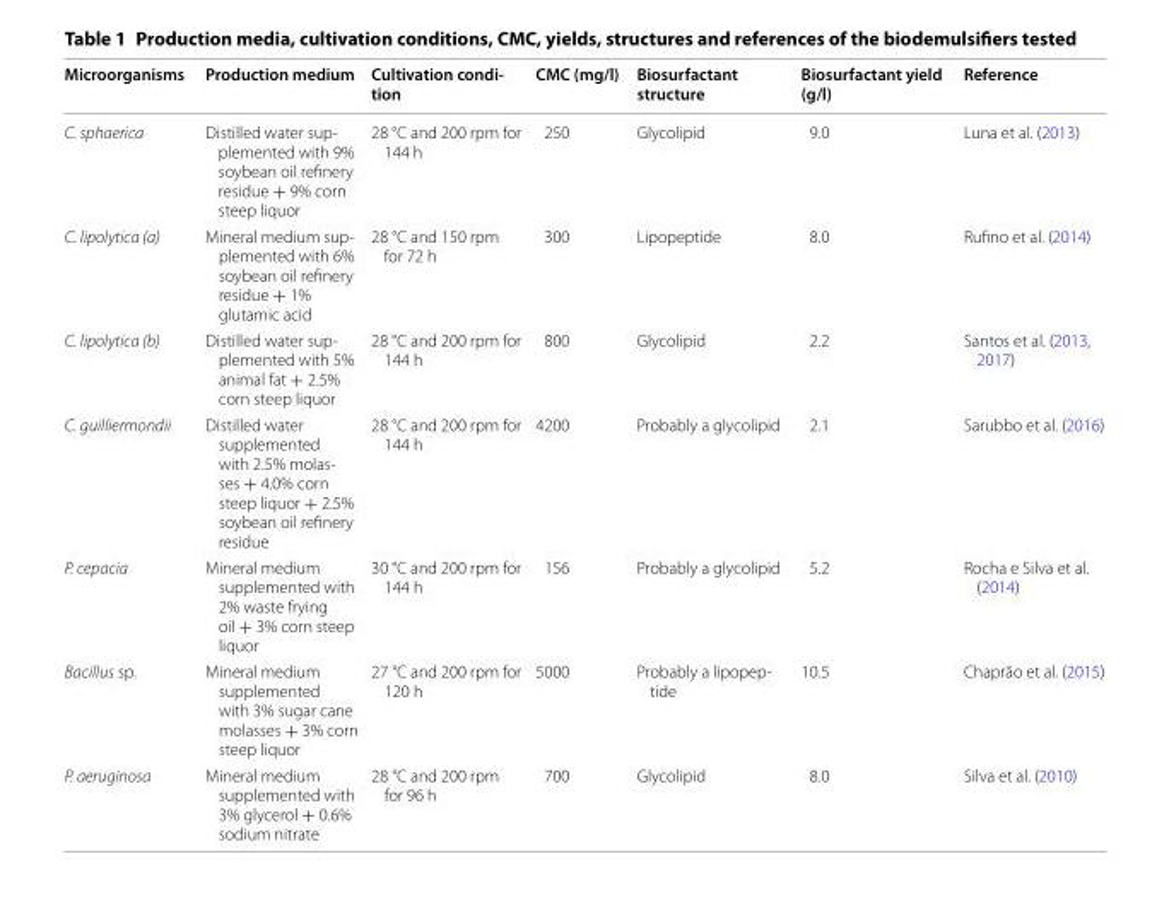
<table><thead><tr><td>Microorganisms</td><td>Production medium</td><td>Cultivation condi‑ tion</td><td>CMC (mg/l)</td><td>Biosurfactant structure</td><td>Biosurfactant yield (g/l)</td><td>Reference</td></tr></thead><tbody><tr><td>C. sphaerica</td><td>Distilled water sup- plemented with 9% soybean oil refinery residue + 9% corn steep liquor</td><td>28 °C and 200 rpm for 144 h</td><td>250</td><td>Glycolipid</td><td>9.0</td><td>Luna et al. (2013)</td></tr><tr><td>C. lipolytica (a)</td><td>Mineral medium sup- plemented with 6% soybean oil refinery residue + 1% glutamic acid</td><td>28 °C and 150 rpm for 72 h</td><td>300</td><td>Lipopeptide</td><td>8.0</td><td>Rufino et al. (2014)</td></tr><tr><td>C. lipolytica (b)</td><td>Distilled water sup- plemented with 5% animal fat + 2.5% corn steep liquor</td><td>28 °C and 200 rpm for 144 h</td><td>800</td><td>Glycolipid</td><td>2.2</td><td>Santos et al. (2013, 2017)</td></tr><tr><td>C. guilliermondii</td><td>Distilled water supplemented with 2.5% molas- ses + 4.0% corn steep liquor + 2.5% soybean oil refinery residue</td><td>28 °C and 200 rpm for 144 h</td><td>4200</td><td>Probably a glycolipid</td><td>2.1</td><td>Sarubbo et al. (2016)</td></tr><tr><td>P. cepacia</td><td>Mineral medium supplemented with 2% waste frying oil + 3% corn steep liquor</td><td>30 °C and 200 rpm for 144 h</td><td>156</td><td>Probably a glycolipid</td><td>5.2</td><td>Rocha e Silva et al. (2014)</td></tr><tr><td>Bacillus sp.</td><td>Mineral medium supplemented with 3% sugar cane molasses + 3% corn steep liquor</td><td>27 °C and 200 rpm for 120 h</td><td>5000</td><td>Probably a lipopep- tide</td><td>10.5</td><td>Chaprão et al. (2015)</td></tr><tr><td>P. aeruginosa</td><td>Mineral medium supplemented with 3% glycerol + 0.6% sodium nitrate</td><td>28 °C and 200 rpm for 96 h</td><td>700</td><td>Glycolipid</td><td>8.0</td><td>Silva et al. (2010)</td></tr></tbody></table>